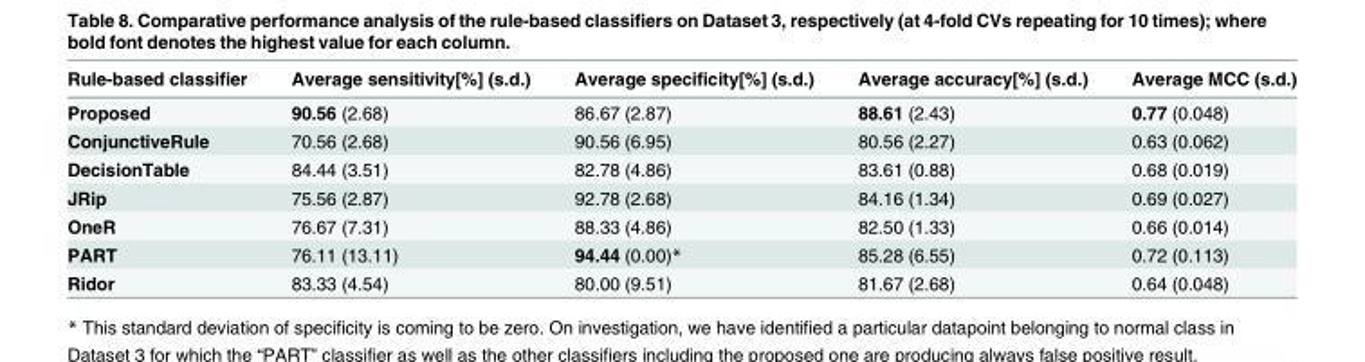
<table><thead><tr><td>Rule-based classifier</td><td>Average sensitivity[%] (s.d.)</td><td>Average specificity[%] (s.d.)</td><td>Average accuracy[%] (s.d.)</td><td>Average MCC (s.d.)</td></tr></thead><tbody><tr><td>Proposed</td><td>90.56 (2.68)</td><td>86.67 (2.87)</td><td>88.61 (2.43)</td><td>0.77 (0.048)</td></tr><tr><td>ConjunctiveRule</td><td>70.56 (2.68)</td><td>90.56 (6.95)</td><td>80.56 (2.27)</td><td>0.63 (0.062)</td></tr><tr><td>DecisionTable</td><td>84.44 (3.51)</td><td>82.78 (4.86)</td><td>83.61 (0.88)</td><td>0.68 (0.019)</td></tr><tr><td>JRip</td><td>75.56 (2.87)</td><td>92.78 (2.68)</td><td>84.16 (1.34)</td><td>0.69 (0.027)</td></tr><tr><td>OneR</td><td>76.67 (7.31)</td><td>88.33 (4.86)</td><td>82.50 (1.33)</td><td>0.66 (0.014)</td></tr><tr><td>PART</td><td>76.11 (13.11)</td><td>94.44 (0.00)*</td><td>85.28 (6.55)</td><td>0.72 (0.113)</td></tr><tr><td>Ridor</td><td>83.33 (4.54)</td><td>80.00 (9.51)</td><td>81.67 (2.68)</td><td>0.64 (0.048)</td></tr></tbody></table>